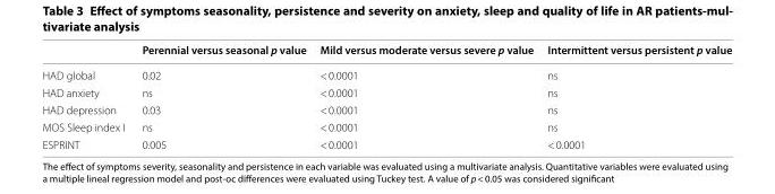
<table><thead><tr><td></td><td>Perennial versus seasonal p value</td><td>Mild versus moderate versus severe p value</td><td>Intermittent versus persistent p value</td></tr></thead><tbody><tr><td>HAD global</td><td>0.02</td><td>&lt; 0.0001</td><td>ns</td></tr><tr><td>HAD anxiety</td><td>ns</td><td>&lt; 0.0001</td><td>ns</td></tr><tr><td>HAD depression</td><td>0.03</td><td>&lt; 0.0001</td><td>ns</td></tr><tr><td>MOS Sleep index I</td><td>ns</td><td>&lt; 0.0001</td><td>ns</td></tr><tr><td>ESPRINT</td><td>0.005</td><td>&lt; 0.0001</td><td>&lt; 0.0001</td></tr></tbody></table>